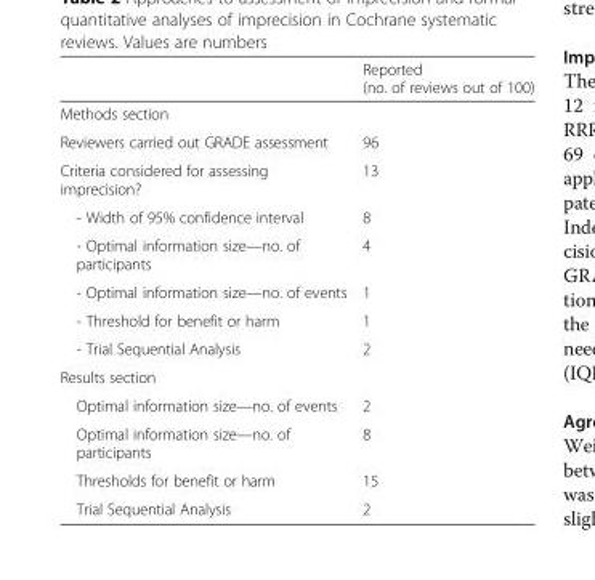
<table><thead><tr><td></td><td>Reported (no. of reviews out of 100)</td></tr></thead><tbody><tr><td colspan="2">Methods section</td></tr><tr><td>Reviewers carried out GRADE assessment</td><td>96</td></tr><tr><td>Criteria considered for assessing imprecision?</td><td>13</td></tr><tr><td>- Width of 95% confidence interval</td><td>8</td></tr><tr><td>- Optimal information size—no. of participants</td><td>4</td></tr><tr><td>- Optimal information size—no. of events</td><td>1</td></tr><tr><td>- Threshold for benefit or harm</td><td>1</td></tr><tr><td>- Trial Sequential Analysis</td><td>2</td></tr><tr><td colspan="2">Results section</td></tr><tr><td>Optimal information size—no. of events</td><td>2</td></tr><tr><td>Optimal information size—no. of participants</td><td>8</td></tr><tr><td>Thresholds for benefit or harm</td><td>15</td></tr><tr><td>Trial Sequential Analysis</td><td>2</td></tr></tbody></table>